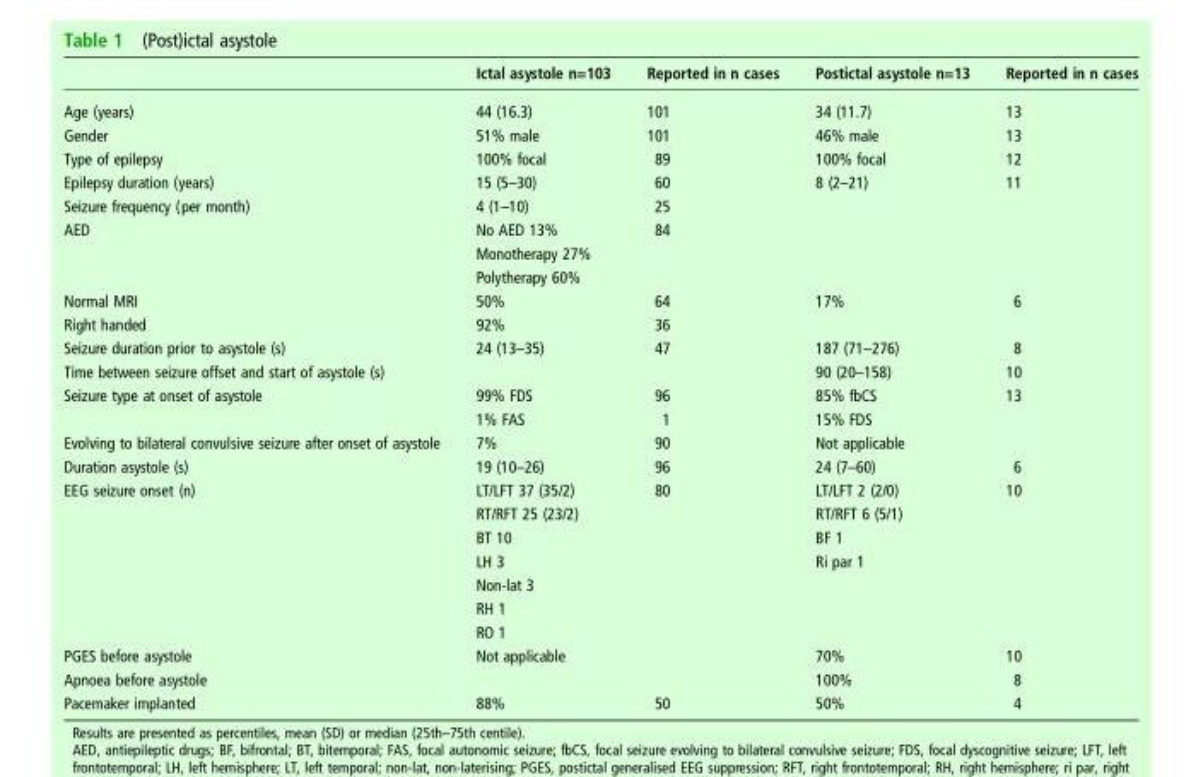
<table><thead><tr><td></td><td>Ictal asystole n=103</td><td>Reported in n cases</td><td>Postictal asystole n=13</td><td>Reported in n cases</td></tr></thead><tbody><tr><td>Age (years)</td><td>44 (16.3)</td><td>101</td><td>34 (11.7)</td><td>13</td></tr><tr><td>Gender</td><td>51% male</td><td>101</td><td>46% male</td><td>13</td></tr><tr><td>Type of epilepsy</td><td>100% focal</td><td>89</td><td>100% focal</td><td>12</td></tr><tr><td>Epilepsy duration (years)</td><td>15 (5–30)</td><td>60</td><td>8 (2–21)</td><td>11</td></tr><tr><td>Seizure frequency (per month)</td><td>4 (1–10)</td><td>25</td><td></td><td></td></tr><tr><td rowspan="3">AED</td><td>No AED 13%</td><td>84</td><td></td><td></td></tr><tr><td>Monotherapy 27%</td><td></td><td></td><td></td></tr><tr><td>Polytherapy 60%</td><td></td><td></td><td></td></tr><tr><td>Normal MRI</td><td>50%</td><td>64</td><td>17%</td><td>6</td></tr><tr><td>Right handed</td><td>92%</td><td>36</td><td></td><td></td></tr><tr><td>Seizure duration prior to asystole (s)</td><td>24 (13–35)</td><td>47</td><td>187 (71–276)</td><td>8</td></tr><tr><td>Time between seizure offset and start of asystole (s)</td><td></td><td></td><td>90 (20–158)</td><td>10</td></tr><tr><td rowspan="2">Seizure type at onset of asystole</td><td>99% FDS</td><td>96</td><td>85% fbCS</td><td>13</td></tr><tr><td>1% FAS</td><td>1</td><td>15% FDS</td><td></td></tr><tr><td>Evolving to bilateral convulsive seizure after onset of asystole</td><td>7%</td><td>90</td><td>Not applicable</td><td></td></tr><tr><td>Duration asystole (s)</td><td>19 (10–26)</td><td>96</td><td>24 (7–60)</td><td>6</td></tr><tr><td rowspan="7">EEG seizure onset (n)</td><td>LT/LFT 37 (35/2)</td><td>80</td><td>LT/LFT 2 (2/0)</td><td>10</td></tr><tr><td>RT/RFT 25 (23/2)</td><td></td><td>RT/RFT 6 (5/1)</td><td></td></tr><tr><td>BT 10</td><td></td><td>BF 1</td><td></td></tr><tr><td>LH 3</td><td></td><td>Ri par 1</td><td></td></tr><tr><td>Non-lat 3</td><td></td><td></td><td></td></tr><tr><td>RH 1</td><td></td><td></td><td></td></tr><tr><td>RO 1</td><td></td><td></td><td></td></tr><tr><td>PGES before asystole</td><td>Not applicable</td><td></td><td>70%</td><td>10</td></tr><tr><td>Apnoea before asystole</td><td></td><td></td><td>100%</td><td>8</td></tr><tr><td>Pacemaker implanted</td><td>88%</td><td>50</td><td>50%</td><td>4</td></tr></tbody></table>